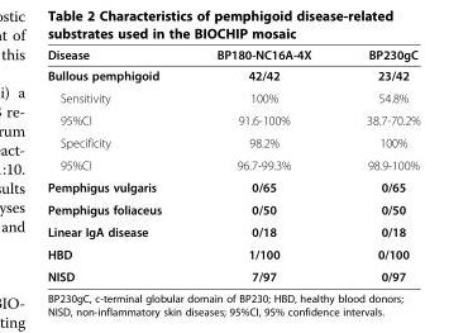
<table><thead><tr><td>Disease</td><td>BP180-NC16A-4X</td><td>BP230gC</td></tr></thead><tbody><tr><td>Bullous pemphigoid</td><td>42/42</td><td>23/42</td></tr><tr><td>Sensitivity</td><td>100%</td><td>54.8%</td></tr><tr><td>95%CI</td><td>91.6-100%</td><td>38.7-70.2%</td></tr><tr><td>Specificity</td><td>98.2%</td><td>100%</td></tr><tr><td>95%CI</td><td>96.7-99.3%</td><td>98.9-100%</td></tr><tr><td>Pemphigus vulgaris</td><td>0/65</td><td>0/65</td></tr><tr><td>Pemphigus foliaceus</td><td>0/50</td><td>0/50</td></tr><tr><td>Linear IgA disease</td><td>0/18</td><td>0/18</td></tr><tr><td>HBD</td><td>1/100</td><td>0/100</td></tr><tr><td>NISD</td><td>7/97</td><td>0/97</td></tr></tbody></table>